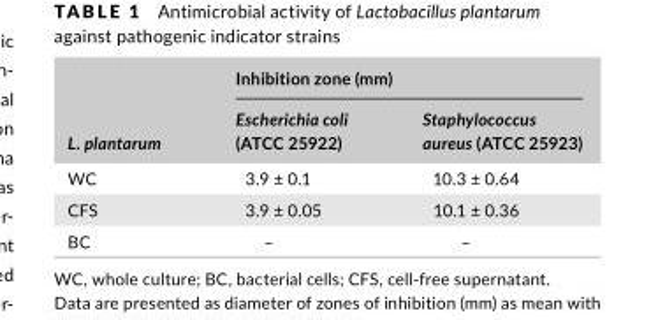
<table><thead><tr><td rowspan="2">L. plantarum</td><td colspan="2">Inhibition zone (mm)</td></tr><tr><td>Escherichia coli (ATCC 25922)</td><td>Staphylococcus aureus (ATCC 25923)</td></tr></thead><tbody><tr><td>WC</td><td>3.9 ± 0.1</td><td>10.3 ± 0.64</td></tr><tr><td>CFS</td><td>3.9 ± 0.05</td><td>10.1 ± 0.36</td></tr><tr><td>BC</td><td>–</td><td>–</td></tr></tbody></table>